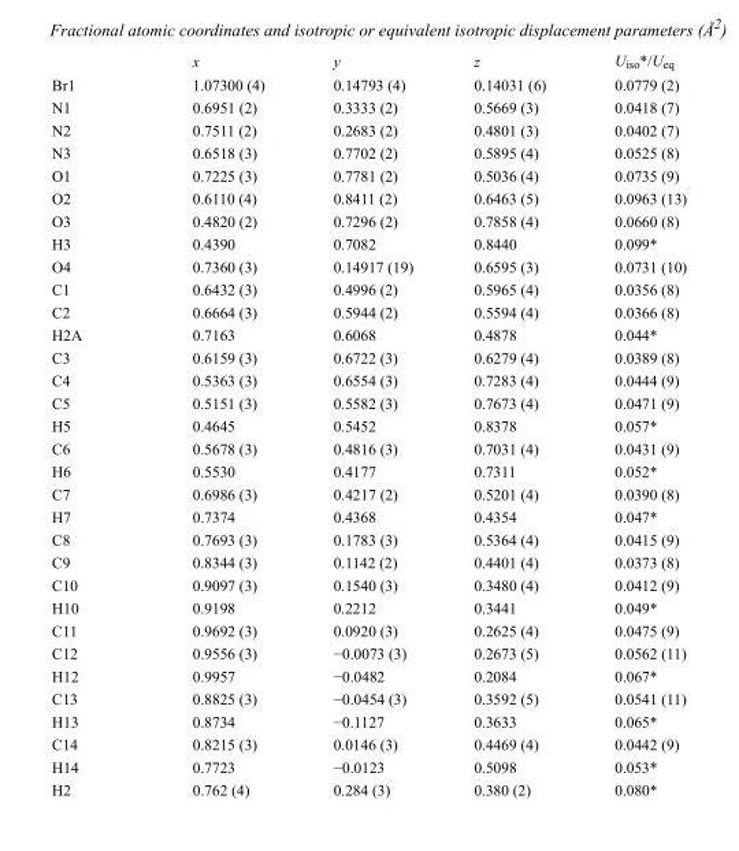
<table><thead><tr><td></td><td>x</td><td>y</td><td>z</td><td>U<sub>iso</sub>*/U<sub>eq</sub></td></tr></thead><tbody><tr><td>Br1</td><td>1.07300 (4)</td><td>0.14793 (4)</td><td>0.14031 (6)</td><td>0.0779 (2)</td></tr><tr><td>N1</td><td>0.6951 (2)</td><td>0.3333 (2)</td><td>0.5669 (3)</td><td>0.0418 (7)</td></tr><tr><td>N2</td><td>0.7511 (2)</td><td>0.2683 (2)</td><td>0.4801 (3)</td><td>0.0402 (7)</td></tr><tr><td>N3</td><td>0.6518 (3)</td><td>0.7702 (2)</td><td>0.5895 (4)</td><td>0.0525 (8)</td></tr><tr><td>O1</td><td>0.7225 (3)</td><td>0.7781 (2)</td><td>0.5036 (4)</td><td>0.0735 (9)</td></tr><tr><td>O2</td><td>0.6110 (4)</td><td>0.8411 (2)</td><td>0.6463 (5)</td><td>0.0963 (13)</td></tr><tr><td>O3</td><td>0.4820 (2)</td><td>0.7296 (2)</td><td>0.7858 (4)</td><td>0.0660 (8)</td></tr><tr><td>H3</td><td>0.4390</td><td>0.7082</td><td>0.8440</td><td>0.099*</td></tr><tr><td>O4</td><td>0.7360 (3)</td><td>0.14917 (19)</td><td>0.6595 (3)</td><td>0.0731 (10)</td></tr><tr><td>C1</td><td>0.6432 (3)</td><td>0.4996 (2)</td><td>0.5965 (4)</td><td>0.0356 (8)</td></tr><tr><td>C2</td><td>0.6664 (3)</td><td>0.5944 (2)</td><td>0.5594 (4)</td><td>0.0366 (8)</td></tr><tr><td>H2A</td><td>0.7163</td><td>0.6068</td><td>0.4878</td><td>0.044*</td></tr><tr><td>C3</td><td>0.6159 (3)</td><td>0.6722 (3)</td><td>0.6279 (4)</td><td>0.0389 (8)</td></tr><tr><td>C4</td><td>0.5363 (3)</td><td>0.6554 (3)</td><td>0.7283 (4)</td><td>0.0444 (9)</td></tr><tr><td>C5</td><td>0.5151 (3)</td><td>0.5582 (3)</td><td>0.7673 (4)</td><td>0.0471 (9)</td></tr><tr><td>H5</td><td>0.4645</td><td>0.5452</td><td>0.8378</td><td>0.057*</td></tr><tr><td>C6</td><td>0.5678 (3)</td><td>0.4816 (3)</td><td>0.7031 (4)</td><td>0.0431 (9)</td></tr><tr><td>H6</td><td>0.5530</td><td>0.4177</td><td>0.7311</td><td>0.052*</td></tr><tr><td>C7</td><td>0.6986 (3)</td><td>0.4217 (2)</td><td>0.5201 (4)</td><td>0.0390 (8)</td></tr><tr><td>H7</td><td>0.7374</td><td>0.4368</td><td>0.4354</td><td>0.047*</td></tr><tr><td>C8</td><td>0.7693 (3)</td><td>0.1783 (3)</td><td>0.5364 (4)</td><td>0.0415 (9)</td></tr><tr><td>C9</td><td>0.8344 (3)</td><td>0.1142 (2)</td><td>0.4401 (4)</td><td>0.0373 (8)</td></tr><tr><td>C10</td><td>0.9097 (3)</td><td>0.1540 (3)</td><td>0.3480 (4)</td><td>0.0412 (9)</td></tr><tr><td>H10</td><td>0.9198</td><td>0.2212</td><td>0.3441</td><td>0.049*</td></tr><tr><td>C11</td><td>0.9692 (3)</td><td>0.0920 (3)</td><td>0.2625 (4)</td><td>0.0475 (9)</td></tr><tr><td>C12</td><td>0.9556 (3)</td><td>−0.0073 (3)</td><td>0.2673 (5)</td><td>0.0562 (11)</td></tr><tr><td>H12</td><td>0.9957</td><td>−0.0482</td><td>0.2084</td><td>0.067*</td></tr><tr><td>C13</td><td>0.8825 (3)</td><td>−0.0454 (3)</td><td>0.3592 (5)</td><td>0.0541 (11)</td></tr><tr><td>H13</td><td>0.8734</td><td>−0.1127</td><td>0.3633</td><td>0.065*</td></tr><tr><td>C14</td><td>0.8215 (3)</td><td>0.0146 (3)</td><td>0.4469 (4)</td><td>0.0442 (9)</td></tr><tr><td>H14</td><td>0.7723</td><td>−0.0123</td><td>0.5098</td><td>0.053*</td></tr><tr><td>H2</td><td>0.762 (4)</td><td>0.284 (3)</td><td>0.380 (2)</td><td>0.080*</td></tr></tbody></table>